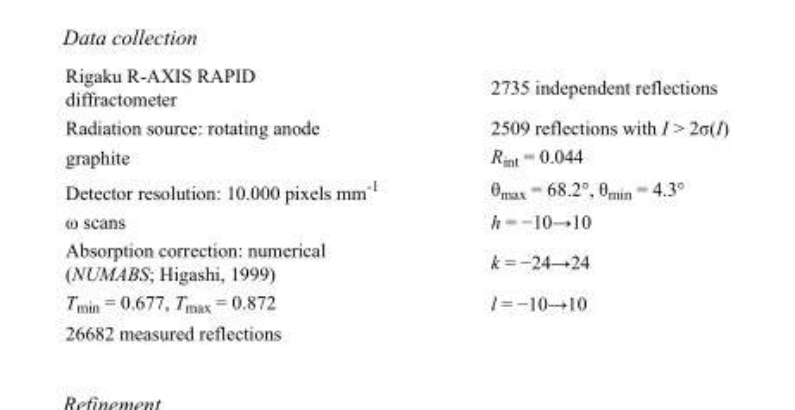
<table><tbody><tr><td>Rigaku R-AXIS RAPID diffractometer</td><td>2735 independent reflections</td></tr><tr><td>Radiation source: rotating anode</td><td>2509 reflections with I &gt; 2σ(I)</td></tr><tr><td>graphite</td><td>R<sub>int</sub> = 0.044</td></tr><tr><td>Detector resolution: 10.000 pixels mm<sup>-1</sup></td><td>θ<sub>max</sub> = 68.2°, θ<sub>min</sub> = 4.3°</td></tr><tr><td>ω scans</td><td>h = −10→10</td></tr><tr><td>Absorption correction: numerical (NUMABS; Higashi, 1999)</td><td>k = −24→24</td></tr><tr><td>T<sub>min</sub> = 0.677, T<sub>max</sub> = 0.872</td><td>l = −10→10</td></tr><tr><td>26682 measured reflections</td><td></td></tr></tbody></table>